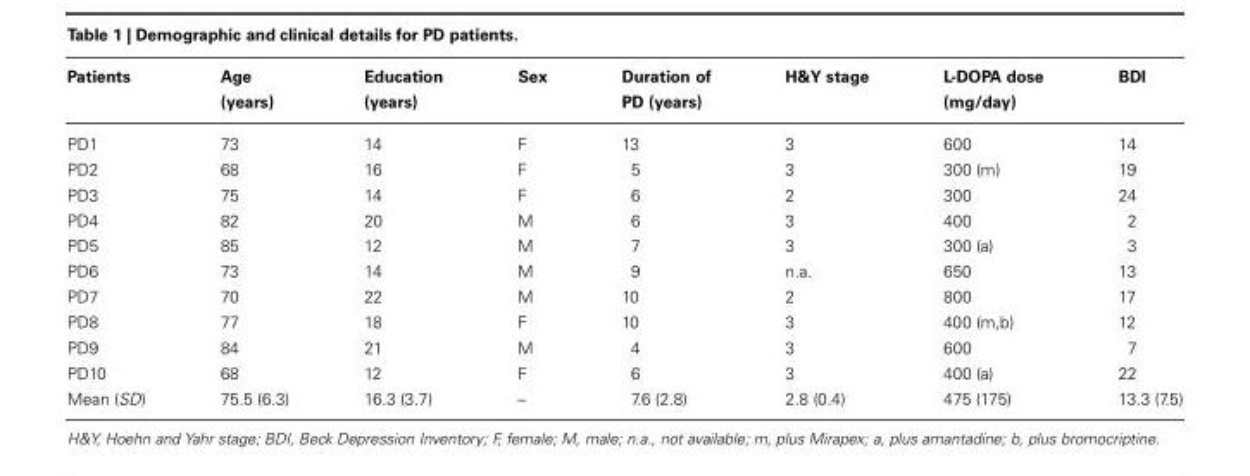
<table><thead><tr><td>Patients</td><td>Age (years)</td><td>Education (years)</td><td>Sex</td><td>Duration of PD (years)</td><td>H&amp;Y stage</td><td>L-DOPA dose (mg/day)</td><td>BDI</td></tr></thead><tbody><tr><td>PD1</td><td>73</td><td>14</td><td>F</td><td>13</td><td>3</td><td>600</td><td>14</td></tr><tr><td>PD2</td><td>68</td><td>16</td><td>F</td><td>5</td><td>3</td><td>300 (m)</td><td>19</td></tr><tr><td>PD3</td><td>75</td><td>14</td><td>F</td><td>6</td><td>2</td><td>300</td><td>24</td></tr><tr><td>PD4</td><td>82</td><td>20</td><td>M</td><td>6</td><td>3</td><td>400</td><td>2</td></tr><tr><td>PD5</td><td>85</td><td>12</td><td>M</td><td>7</td><td>3</td><td>300 (a)</td><td>3</td></tr><tr><td>PD6</td><td>73</td><td>14</td><td>M</td><td>9</td><td>n.a.</td><td>650</td><td>13</td></tr><tr><td>PD7</td><td>70</td><td>22</td><td>M</td><td>10</td><td>2</td><td>800</td><td>17</td></tr><tr><td>PD8</td><td>77</td><td>18</td><td>F</td><td>10</td><td>3</td><td>400 (m,b)</td><td>12</td></tr><tr><td>PD9</td><td>84</td><td>21</td><td>M</td><td>4</td><td>3</td><td>600</td><td>7</td></tr><tr><td>PD10</td><td>68</td><td>12</td><td>F</td><td>6</td><td>3</td><td>400 (a)</td><td>22</td></tr><tr><td>Mean (SD)</td><td>75.5 (6.3)</td><td>16.3 (3.7)</td><td>–</td><td>7.6 (2.8)</td><td>2.8 (0.4)</td><td>475 (175)</td><td>13.3 (7.5)</td></tr></tbody></table>